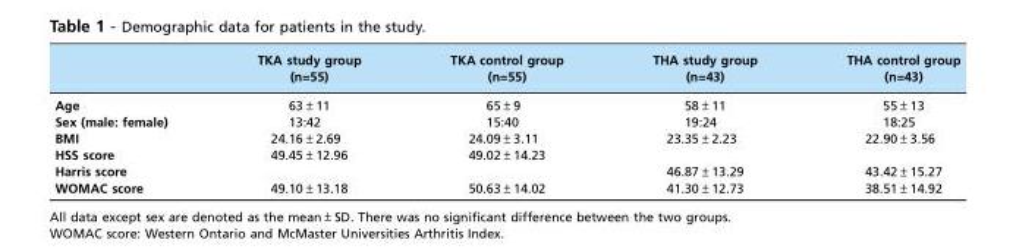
<table><thead><tr><td></td><td>TKA study group (n=55)</td><td>TKA control group (n=55)</td><td>THA study group (n=43)</td><td>THA control group (n=43)</td></tr></thead><tbody><tr><td>Age</td><td>63±11</td><td>65±9</td><td>58±11</td><td>55±13</td></tr><tr><td>Sex (male: female)</td><td>13:42</td><td>15:40</td><td>19:24</td><td>18:25</td></tr><tr><td>BMI</td><td>24.16±2.69</td><td>24.09±3.11</td><td>23.35±2.23</td><td>22.90±3.56</td></tr><tr><td>HSS score</td><td>49.45±12.96</td><td>49.02±14.23</td><td></td><td></td></tr><tr><td>Harris score</td><td></td><td></td><td>46.87±13.29</td><td>43.42±15.27</td></tr><tr><td>WOMAC score</td><td>49.10±13.18</td><td>50.63±14.02</td><td>41.30±12.73</td><td>38.51±14.92</td></tr></tbody></table>